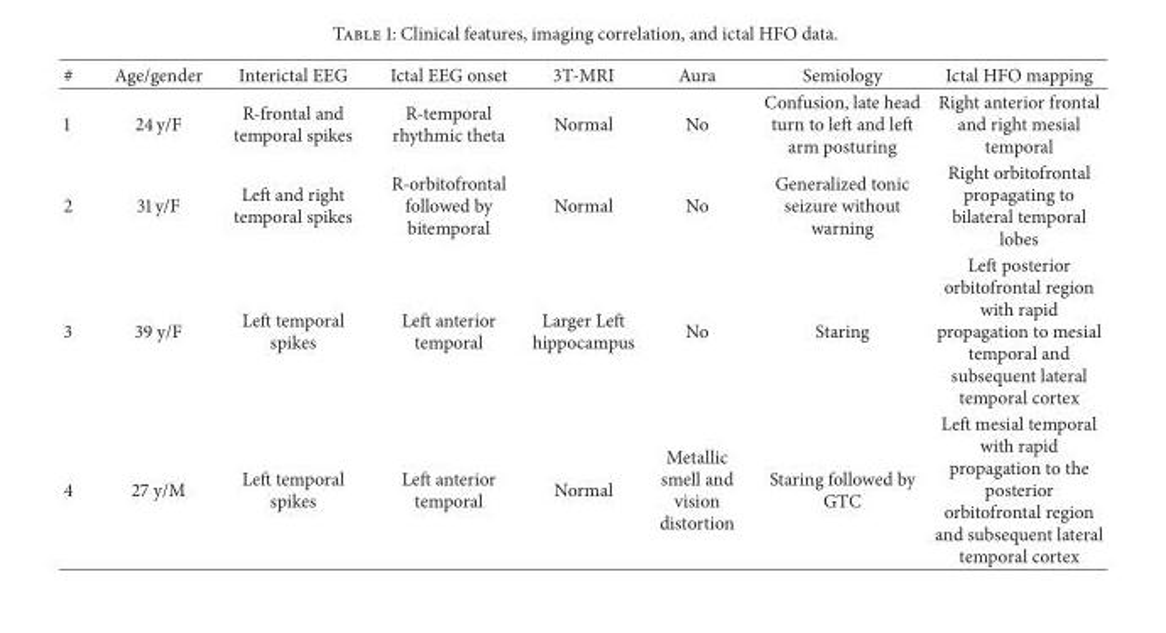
<table><thead><tr><td>#</td><td>Age/gender</td><td>Interictal EEG</td><td>Ictal EEG onset</td><td>3T-MRI</td><td>Aura</td><td>Semiology</td><td>Ictal HFO mapping</td></tr></thead><tbody><tr><td>1</td><td>24 y/F</td><td>R-frontal and temporal spikes</td><td>R-temporal rhythmic theta</td><td>Normal</td><td>No</td><td>Confusion, late head turn to left and left arm posturing</td><td>Right anterior frontal and right mesial temporal</td></tr><tr><td>2</td><td>31 y/F</td><td>Left and right temporal spikes</td><td>R-orbitofrontal followed by bitemporal</td><td>Normal</td><td>No</td><td>Generalized tonic seizure without warning</td><td>Right orbitofrontal propagating to bilateral temporal lobes</td></tr><tr><td>3</td><td>39 y/F</td><td>Left temporal spikes</td><td>Left anterior temporal</td><td>Larger Left hippocampus</td><td>No</td><td>Staring</td><td>Left posterior orbitofrontal region with rapid propagation to mesial temporal and subsequent lateral temporal cortex</td></tr><tr><td>4</td><td>27 y/M</td><td>Left temporal spikes</td><td>Left anterior temporal</td><td>Normal</td><td>Metallic smell and vision distortion</td><td>Staring followed by GTC</td><td>Left mesial temporal with rapid propagation to the posterior orbitofrontal region and subsequent lateral temporal cortex</td></tr></tbody></table>